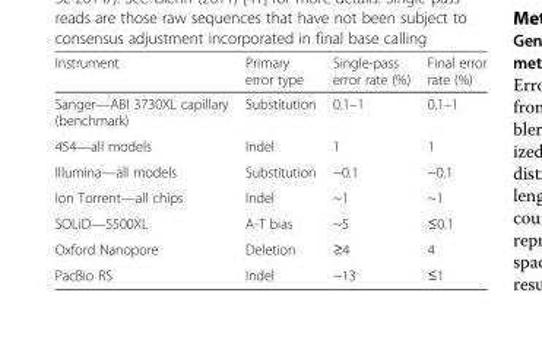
<table><thead><tr><td>Instrument</td><td>Primary error type</td><td>Single-pass error rate (%)</td><td>Final error rate (%)</td></tr></thead><tbody><tr><td>Sanger—ABI 3730XL capillary (benchmark)</td><td>Substitution</td><td>0.1–1</td><td>0.1–1</td></tr><tr><td>454—all models</td><td>Indel</td><td>1</td><td>1</td></tr><tr><td>Illumina—all models</td><td>Substitution</td><td>~0.1</td><td>~0.1</td></tr><tr><td>Ion Torrent—all chips</td><td>Indel</td><td>~1</td><td>~1</td></tr><tr><td>SOLiD—5500XL</td><td>A-T bias</td><td>~5</td><td>≤0.1</td></tr><tr><td>Oxford Nanopore</td><td>Deletion</td><td>≥4</td><td>4</td></tr><tr><td>PacBio RS</td><td>Indel</td><td>~13</td><td>≤1</td></tr></tbody></table>